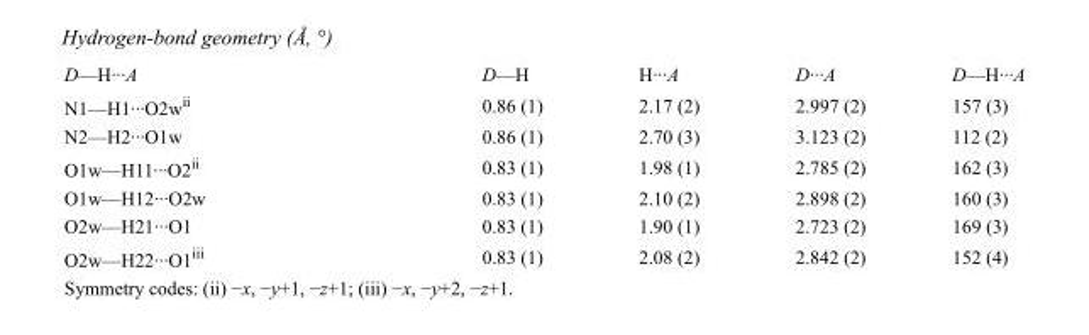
<table><tbody><tr><td>D—H···A</td><td>D—H</td><td>H···A</td><td>D···A</td><td>D—H···A</td></tr><tr><td>N1—H1···O2w<sup>ii</sup></td><td>0.86 (1)</td><td>2.17 (2)</td><td>2.997 (2)</td><td>157 (3)</td></tr><tr><td>N2—H2···O1w</td><td>0.86 (1)</td><td>2.70 (3)</td><td>3.123 (2)</td><td>112 (2)</td></tr><tr><td>O1w—H11···O2<sup>ii</sup></td><td>0.83 (1)</td><td>1.98 (1)</td><td>2.785 (2)</td><td>162 (3)</td></tr><tr><td>O1w—H12···O2w</td><td>0.83 (1)</td><td>2.10 (2)</td><td>2.898 (2)</td><td>160 (3)</td></tr><tr><td>O2w—H21···O1</td><td>0.83 (1)</td><td>1.90 (1)</td><td>2.723 (2)</td><td>169 (3)</td></tr><tr><td>O2w—H22···O1<sup>iii</sup></td><td>0.83 (1)</td><td>2.08 (2)</td><td>2.842 (2)</td><td>152 (4)</td></tr></tbody></table>